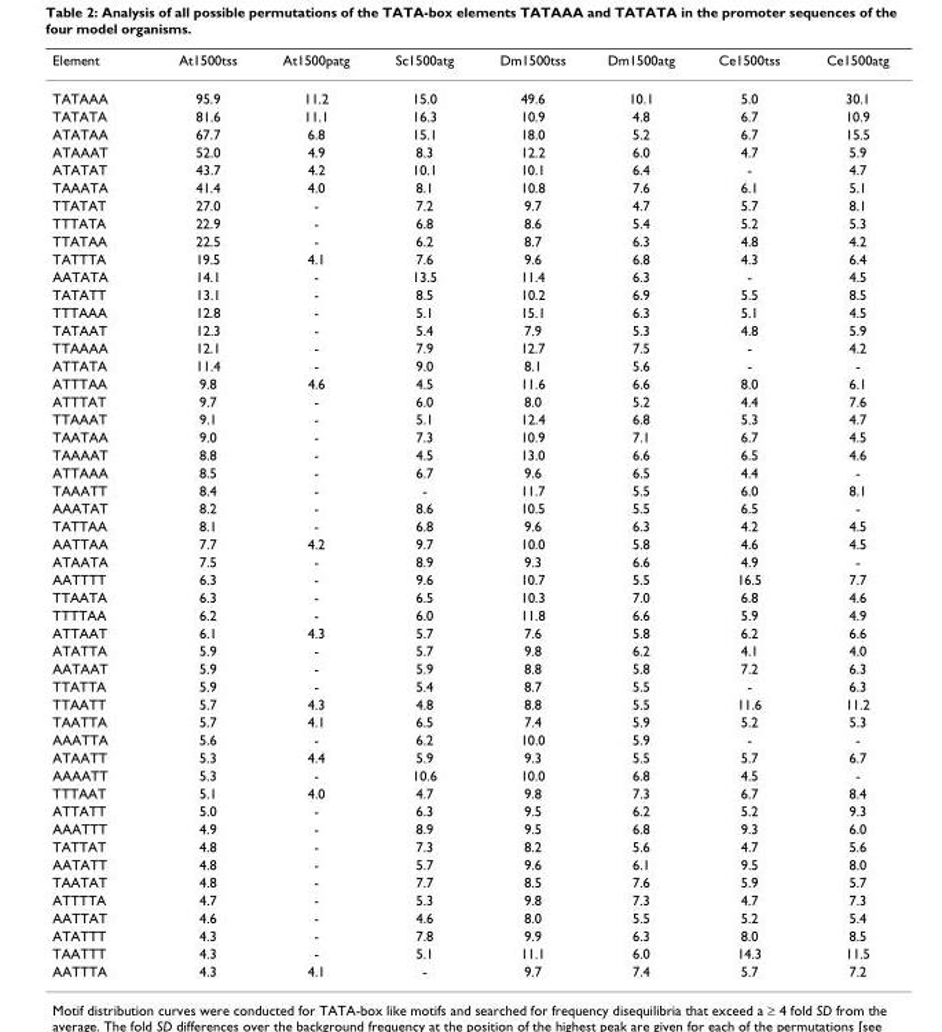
<table><thead><tr><td>Element</td><td>At1500tss</td><td>At1500patg</td><td>Sc1500atg</td><td>Dm1500tss</td><td>Dm1500atg</td><td>Ce1500tss</td><td>Ce1500atg</td></tr></thead><tbody><tr><td>TATAAA</td><td>95.9</td><td>11.2</td><td>15.0</td><td>49.6</td><td>10.1</td><td>5.0</td><td>30.1</td></tr><tr><td>TATATA</td><td>81.6</td><td>11.1</td><td>16.3</td><td>10.9</td><td>4.8</td><td>6.7</td><td>10.9</td></tr><tr><td>ATATAA</td><td>67.7</td><td>6.8</td><td>15.1</td><td>18.0</td><td>5.2</td><td>6.7</td><td>15.5</td></tr><tr><td>ATAAAT</td><td>52.0</td><td>4.9</td><td>8.3</td><td>12.2</td><td>6.0</td><td>4.7</td><td>5.9</td></tr><tr><td>ATATAT</td><td>43.7</td><td>4.2</td><td>10.1</td><td>10.1</td><td>6.4</td><td>-</td><td>4.7</td></tr><tr><td>TAAATA</td><td>41.4</td><td>4.0</td><td>8.1</td><td>10.8</td><td>7.6</td><td>6.1</td><td>5.1</td></tr><tr><td>TTATAT</td><td>27.0</td><td>-</td><td>7.2</td><td>9.7</td><td>4.7</td><td>5.7</td><td>8.1</td></tr><tr><td>TTTATA</td><td>22.9</td><td>-</td><td>6.8</td><td>8.6</td><td>5.4</td><td>5.2</td><td>5.3</td></tr><tr><td>TTATAA</td><td>22.5</td><td>-</td><td>6.2</td><td>8.7</td><td>6.3</td><td>4.8</td><td>4.2</td></tr><tr><td>TATTTA</td><td>19.5</td><td>4.1</td><td>7.6</td><td>9.6</td><td>6.8</td><td>4.3</td><td>6.4</td></tr><tr><td>AATATA</td><td>14.1</td><td>-</td><td>13.5</td><td>11.4</td><td>6.3</td><td>-</td><td>4.5</td></tr><tr><td>TATATT</td><td>13.1</td><td>-</td><td>8.5</td><td>10.2</td><td>6.9</td><td>5.5</td><td>8.5</td></tr><tr><td>TTTAAA</td><td>12.8</td><td>-</td><td>5.1</td><td>15.1</td><td>6.3</td><td>5.1</td><td>4.5</td></tr><tr><td>TATAAT</td><td>12.3</td><td>-</td><td>5.4</td><td>7.9</td><td>5.3</td><td>4.8</td><td>5.9</td></tr><tr><td>TTAAAA</td><td>12.1</td><td>-</td><td>7.9</td><td>12.7</td><td>7.5</td><td>-</td><td>4.2</td></tr><tr><td>ATTATA</td><td>11.4</td><td>-</td><td>9.0</td><td>8.1</td><td>5.6</td><td>-</td><td>-</td></tr><tr><td>ATTTAA</td><td>9.8</td><td>4.6</td><td>4.5</td><td>11.6</td><td>6.6</td><td>8.0</td><td>6.1</td></tr><tr><td>ATTTAT</td><td>9.7</td><td>-</td><td>6.0</td><td>8.0</td><td>5.2</td><td>4.4</td><td>7.6</td></tr><tr><td>TTAAAT</td><td>9.1</td><td>-</td><td>5.1</td><td>12.4</td><td>6.8</td><td>5.3</td><td>4.7</td></tr><tr><td>TAATAA</td><td>9.0</td><td>-</td><td>7.3</td><td>10.9</td><td>7.1</td><td>6.7</td><td>4.5</td></tr><tr><td>TAAAAT</td><td>8.8</td><td>-</td><td>4.5</td><td>13.0</td><td>6.6</td><td>6.5</td><td>4.6</td></tr><tr><td>ATTAAA</td><td>8.5</td><td>-</td><td>6.7</td><td>9.6</td><td>6.5</td><td>4.4</td><td>-</td></tr><tr><td>TAAATT</td><td>8.4</td><td>-</td><td>-</td><td>11.7</td><td>5.5</td><td>6.0</td><td>8.1</td></tr><tr><td>AAATAT</td><td>8.2</td><td>-</td><td>8.6</td><td>10.5</td><td>5.5</td><td>6.5</td><td>-</td></tr><tr><td>TATTAA</td><td>8.1</td><td>-</td><td>6.8</td><td>9.6</td><td>6.3</td><td>4.2</td><td>4.5</td></tr><tr><td>AATTAA</td><td>7.7</td><td>4.2</td><td>9.7</td><td>10.0</td><td>5.8</td><td>4.6</td><td>4.5</td></tr><tr><td>ATAATA</td><td>7.5</td><td>-</td><td>8.9</td><td>9.3</td><td>6.6</td><td>4.9</td><td>-</td></tr><tr><td>AATTTT</td><td>6.3</td><td>-</td><td>9.6</td><td>10.7</td><td>5.5</td><td>16.5</td><td>7.7</td></tr><tr><td>TTAATA</td><td>6.3</td><td>-</td><td>6.5</td><td>10.3</td><td>7.0</td><td>6.8</td><td>4.6</td></tr><tr><td>TTTTAA</td><td>6.2</td><td>-</td><td>6.0</td><td>11.8</td><td>6.6</td><td>5.9</td><td>4.9</td></tr><tr><td>ATTAAT</td><td>6.1</td><td>4.3</td><td>5.7</td><td>7.6</td><td>5.8</td><td>6.2</td><td>6.6</td></tr><tr><td>ATATTA</td><td>5.9</td><td>-</td><td>5.7</td><td>9.8</td><td>6.2</td><td>4.1</td><td>4.0</td></tr><tr><td>AATAAT</td><td>5.9</td><td>-</td><td>5.9</td><td>8.8</td><td>5.8</td><td>7.2</td><td>6.3</td></tr><tr><td>TTATTA</td><td>5.9</td><td>-</td><td>5.4</td><td>8.7</td><td>5.5</td><td>-</td><td>6.3</td></tr><tr><td>TTAATT</td><td>5.7</td><td>4.3</td><td>4.8</td><td>8.8</td><td>5.5</td><td>11.6</td><td>11.2</td></tr><tr><td>TAATTA</td><td>5.7</td><td>4.1</td><td>6.5</td><td>7.4</td><td>5.9</td><td>5.2</td><td>5.3</td></tr><tr><td>AAATTA</td><td>5.6</td><td>-</td><td>6.2</td><td>10.0</td><td>5.9</td><td>-</td><td>-</td></tr><tr><td>ATAATT</td><td>5.3</td><td>4.4</td><td>5.9</td><td>9.3</td><td>5.5</td><td>5.7</td><td>6.7</td></tr><tr><td>AAAATT</td><td>5.3</td><td>-</td><td>10.6</td><td>10.0</td><td>6.8</td><td>4.5</td><td>-</td></tr><tr><td>TTTAAT</td><td>5.1</td><td>4.0</td><td>4.7</td><td>9.8</td><td>7.3</td><td>6.7</td><td>8.4</td></tr><tr><td>ATTATT</td><td>5.0</td><td>-</td><td>6.3</td><td>9.5</td><td>6.2</td><td>5.2</td><td>9.3</td></tr><tr><td>AAATTT</td><td>4.9</td><td>-</td><td>8.9</td><td>9.5</td><td>6.8</td><td>9.3</td><td>6.0</td></tr><tr><td>TATTAT</td><td>4.8</td><td>-</td><td>7.3</td><td>8.2</td><td>5.6</td><td>4.7</td><td>5.6</td></tr><tr><td>AATATT</td><td>4.8</td><td>-</td><td>5.7</td><td>9.6</td><td>6.1</td><td>9.5</td><td>8.0</td></tr><tr><td>TAATAT</td><td>4.8</td><td>-</td><td>7.7</td><td>8.5</td><td>7.6</td><td>5.9</td><td>5.7</td></tr><tr><td>ATTTTA</td><td>4.7</td><td>-</td><td>5.3</td><td>9.8</td><td>7.3</td><td>4.7</td><td>7.3</td></tr><tr><td>AATTAT</td><td>4.6</td><td>-</td><td>4.6</td><td>8.0</td><td>5.5</td><td>5.2</td><td>5.4</td></tr><tr><td>ATATTT</td><td>4.3</td><td>-</td><td>7.8</td><td>9.9</td><td>6.3</td><td>8.0</td><td>8.5</td></tr><tr><td>TAATTT</td><td>4.3</td><td>-</td><td>5.1</td><td>11.1</td><td>6.0</td><td>14.3</td><td>11.5</td></tr><tr><td>AATTTA</td><td>4.3</td><td>4.1</td><td>-</td><td>9.7</td><td>7.4</td><td>5.7</td><td>7.2</td></tr></tbody></table>